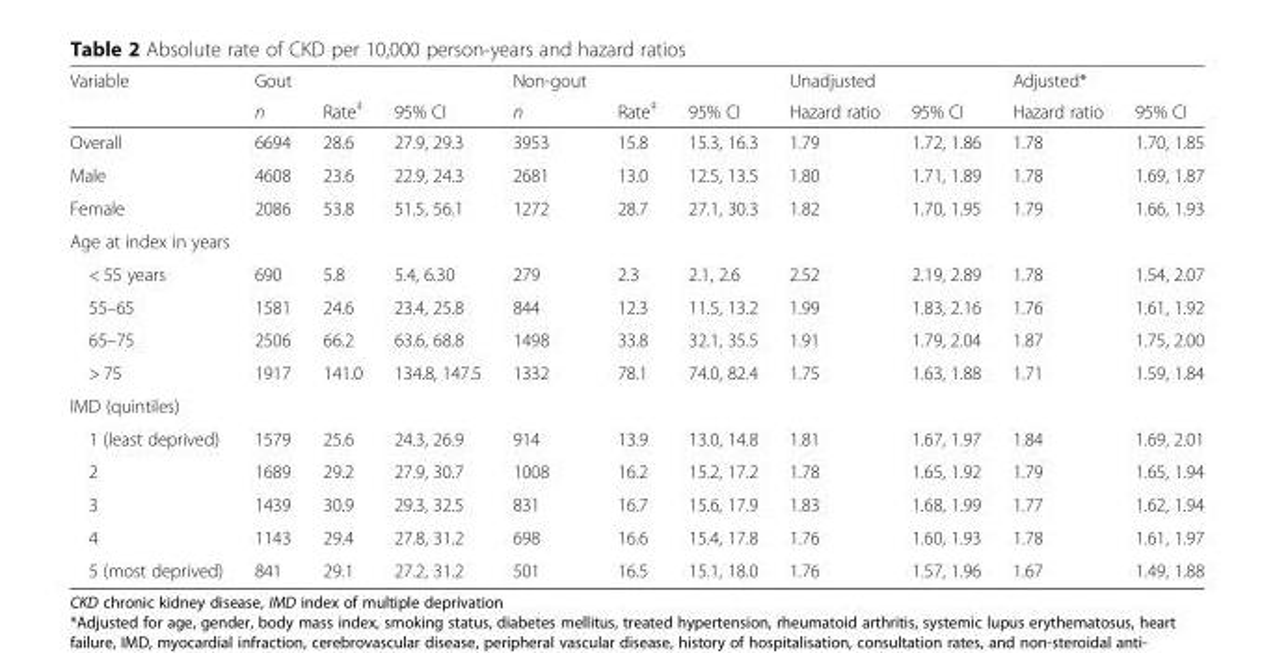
<table><thead><tr><td rowspan="2">Variable</td><td rowspan="2">Gout n</td><td rowspan="2">Rate<sup>‡</sup></td><td rowspan="2">95% CI</td><td rowspan="2">Non-gout n</td><td rowspan="2">Rate<sup>‡</sup></td><td rowspan="2">95% CI</td><td rowspan="2">Unadjusted Hazard ratio</td><td rowspan="2">95% CI</td><td rowspan="2">Adjusted* Hazard ratio</td><td rowspan="2">95% CI</td></tr><tr></tr></thead><tbody><tr><td>Overall</td><td>6694</td><td>28.6</td><td>27.9, 29.3</td><td>3953</td><td>15.8</td><td>15.3, 16.3</td><td>1.79</td><td>1.72, 1.86</td><td>1.78</td><td>1.70, 1.85</td></tr><tr><td>Male</td><td>4608</td><td>23.6</td><td>22.9, 24.3</td><td>2681</td><td>13.0</td><td>12.5, 13.5</td><td>1.80</td><td>1.71, 1.89</td><td>1.78</td><td>1.69, 1.87</td></tr><tr><td>Female</td><td>2086</td><td>53.8</td><td>51.5, 56.1</td><td>1272</td><td>28.7</td><td>27.1, 30.3</td><td>1.82</td><td>1.70, 1.95</td><td>1.79</td><td>1.66, 1.93</td></tr><tr><td colspan="11">Age at index in years</td></tr><tr><td>&lt; 55 years</td><td>690</td><td>5.8</td><td>5.4, 6.30</td><td>279</td><td>2.3</td><td>2.1, 2.6</td><td>2.52</td><td>2.19, 2.89</td><td>1.78</td><td>1.54, 2.07</td></tr><tr><td>55–65</td><td>1581</td><td>24.6</td><td>23.4, 25.8</td><td>844</td><td>12.3</td><td>11.5, 13.2</td><td>1.99</td><td>1.83, 2.16</td><td>1.76</td><td>1.61, 1.92</td></tr><tr><td>65–75</td><td>2506</td><td>66.2</td><td>63.6, 68.8</td><td>1498</td><td>33.8</td><td>32.1, 35.5</td><td>1.91</td><td>1.79, 2.04</td><td>1.87</td><td>1.75, 2.00</td></tr><tr><td>&gt; 75</td><td>1917</td><td>141.0</td><td>134.8, 147.5</td><td>1332</td><td>78.1</td><td>74.0, 82.4</td><td>1.75</td><td>1.63, 1.88</td><td>1.71</td><td>1.59, 1.84</td></tr><tr><td colspan="11">IMD (quintiles)</td></tr><tr><td>1 (least deprived)</td><td>1579</td><td>25.6</td><td>24.3, 26.9</td><td>914</td><td>13.9</td><td>13.0, 14.8</td><td>1.81</td><td>1.67, 1.97</td><td>1.84</td><td>1.69, 2.01</td></tr><tr><td>2</td><td>1689</td><td>29.2</td><td>27.9, 30.7</td><td>1008</td><td>16.2</td><td>15.2, 17.2</td><td>1.78</td><td>1.65, 1.92</td><td>1.79</td><td>1.65, 1.94</td></tr><tr><td>3</td><td>1439</td><td>30.9</td><td>29.3, 32.5</td><td>831</td><td>16.7</td><td>15.6, 17.9</td><td>1.83</td><td>1.68, 1.99</td><td>1.77</td><td>1.62, 1.94</td></tr><tr><td>4</td><td>1143</td><td>29.4</td><td>27.8, 31.2</td><td>698</td><td>16.6</td><td>15.4, 17.8</td><td>1.76</td><td>1.60, 1.93</td><td>1.78</td><td>1.61, 1.97</td></tr><tr><td>5 (most deprived)</td><td>841</td><td>29.1</td><td>27.2, 31.2</td><td>501</td><td>16.5</td><td>15.1, 18.0</td><td>1.76</td><td>1.57, 1.96</td><td>1.67</td><td>1.49, 1.88</td></tr></tbody></table>